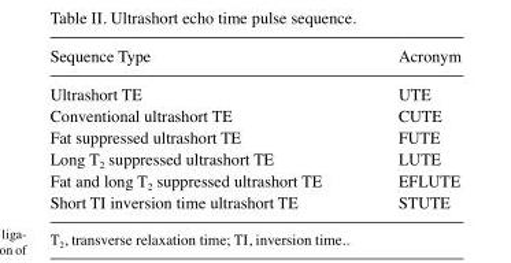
<table><thead><tr><td>Sequence Type</td><td>Acronym</td></tr></thead><tbody><tr><td>Ultrashort TE</td><td>UTE</td></tr><tr><td>Conventional ultrashort TE</td><td>CUTE</td></tr><tr><td>Fat suppressed ultrashort TE</td><td>FUTE</td></tr><tr><td>Long T<sub>2</sub> suppressed ultrashort TE</td><td>LUTE</td></tr><tr><td>Fat and long T<sub>2</sub> suppressed ultrashort TE</td><td>EFLUTE</td></tr><tr><td>Short TI inversion time ultrashort TE</td><td>STUTE</td></tr></tbody></table>